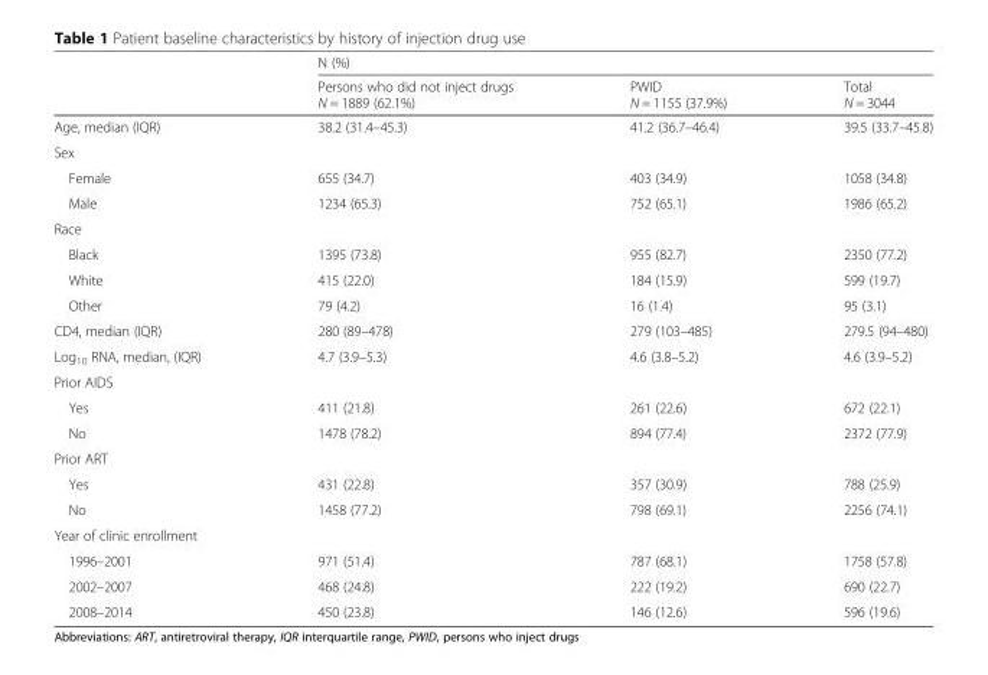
<table><thead><tr><td rowspan="2"></td><td colspan="3">N (%)</td></tr><tr><td>Persons who did not inject drugs N = 1889 (62.1%)</td><td>PWID N = 1155 (37.9%)</td><td>Total N = 3044</td></tr></thead><tbody><tr><td>Age, median (IQR)</td><td>38.2 (31.4–45.3)</td><td>41.2 (36.7–46.4)</td><td>39.5 (33.7–45.8)</td></tr><tr><td colspan="4">Sex</td></tr><tr><td>Female</td><td>655 (34.7)</td><td>403 (34.9)</td><td>1058 (34.8)</td></tr><tr><td>Male</td><td>1234 (65.3)</td><td>752 (65.1)</td><td>1986 (65.2)</td></tr><tr><td colspan="4">Race</td></tr><tr><td>Black</td><td>1395 (73.8)</td><td>955 (82.7)</td><td>2350 (77.2)</td></tr><tr><td>White</td><td>415 (22.0)</td><td>184 (15.9)</td><td>599 (19.7)</td></tr><tr><td>Other</td><td>79 (4.2)</td><td>16 (1.4)</td><td>95 (3.1)</td></tr><tr><td>CD4, median (IQR)</td><td>280 (89–478)</td><td>279 (103–485)</td><td>279.5 (94–480)</td></tr><tr><td>Log<sub>10</sub> RNA, median, (IQR)</td><td>4.7 (3.9–5.3)</td><td>4.6 (3.8–5.2)</td><td>4.6 (3.9–5.2)</td></tr><tr><td colspan="4">Prior AIDS</td></tr><tr><td>Yes</td><td>411 (21.8)</td><td>261 (22.6)</td><td>672 (22.1)</td></tr><tr><td>No</td><td>1478 (78.2)</td><td>894 (77.4)</td><td>2372 (77.9)</td></tr><tr><td colspan="4">Prior ART</td></tr><tr><td>Yes</td><td>431 (22.8)</td><td>357 (30.9)</td><td>788 (25.9)</td></tr><tr><td>No</td><td>1458 (77.2)</td><td>798 (69.1)</td><td>2256 (74.1)</td></tr><tr><td colspan="4">Year of clinic enrollment</td></tr><tr><td>1996–2001</td><td>971 (51.4)</td><td>787 (68.1)</td><td>1758 (57.8)</td></tr><tr><td>2002–2007</td><td>468 (24.8)</td><td>222 (19.2)</td><td>690 (22.7)</td></tr><tr><td>2008–2014</td><td>450 (23.8)</td><td>146 (12.6)</td><td>596 (19.6)</td></tr></tbody></table>